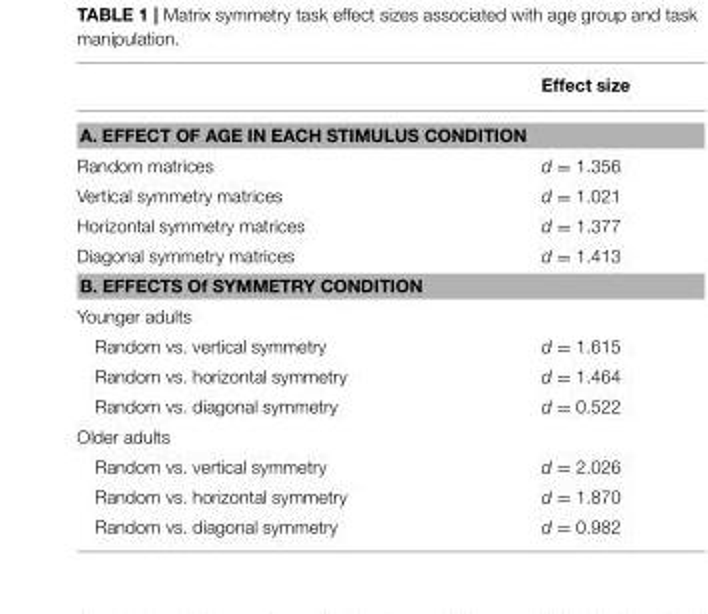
<table><thead><tr><td></td><td>Effect size</td></tr></thead><tbody><tr><td colspan="2">A. EFFECT OF AGE IN EACH STIMULUS CONDITION</td></tr><tr><td>Random matrices</td><td>d = 1.356</td></tr><tr><td>Vertical symmetry matrices</td><td>d = 1.021</td></tr><tr><td>Horizontal symmetry matrices</td><td>d = 1.377</td></tr><tr><td>Diagonal symmetry matrices</td><td>d = 1.413</td></tr><tr><td colspan="2">B. EFFECTS Of SYMMETRY CONDITION</td></tr><tr><td colspan="2">Younger adults</td></tr><tr><td>Random vs. vertical symmetry</td><td>d = 1.615</td></tr><tr><td>Random vs. horizontal symmetry</td><td>d = 1.464</td></tr><tr><td>Random vs. diagonal symmetry</td><td>d = 0.522</td></tr><tr><td colspan="2">Older adults</td></tr><tr><td>Random vs. vertical symmetry</td><td>d = 2.026</td></tr><tr><td>Random vs. horizontal symmetry</td><td>d = 1.870</td></tr><tr><td>Random vs. diagonal symmetry</td><td>d = 0.982</td></tr></tbody></table>